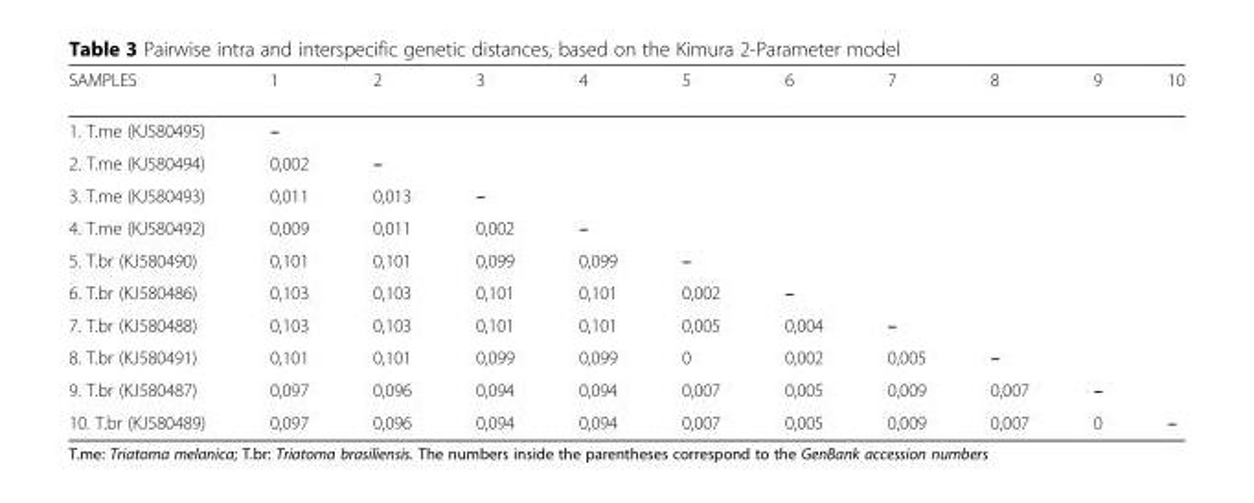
<table><thead><tr><td>SAMPLES</td><td>1</td><td>2</td><td>3</td><td>4</td><td>5</td><td>6</td><td>7</td><td>8</td><td>9</td><td>10</td></tr></thead><tbody><tr><td>1. T.me (KJ580495)</td><td>–</td><td></td><td></td><td></td><td></td><td></td><td></td><td></td><td></td><td></td></tr><tr><td>2. T.me (KJ580494)</td><td>0,002</td><td>–</td><td></td><td></td><td></td><td></td><td></td><td></td><td></td><td></td></tr><tr><td>3. T.me (KJ580493)</td><td>0,011</td><td>0,013</td><td>–</td><td></td><td></td><td></td><td></td><td></td><td></td><td></td></tr><tr><td>4. T.me (KJ580492)</td><td>0,009</td><td>0,011</td><td>0,002</td><td>–</td><td></td><td></td><td></td><td></td><td></td><td></td></tr><tr><td>5. T.br (KJ580490)</td><td>0,101</td><td>0,101</td><td>0,099</td><td>0,099</td><td>–</td><td></td><td></td><td></td><td></td><td></td></tr><tr><td>6. T.br (KJ580486)</td><td>0,103</td><td>0,103</td><td>0,101</td><td>0,101</td><td>0,002</td><td>–</td><td></td><td></td><td></td><td></td></tr><tr><td>7. T.br (KJ580488)</td><td>0,103</td><td>0,103</td><td>0,101</td><td>0,101</td><td>0,005</td><td>0,004</td><td>–</td><td></td><td></td><td></td></tr><tr><td>8. T.br (KJ580491)</td><td>0,101</td><td>0,101</td><td>0,099</td><td>0,099</td><td>0</td><td>0,002</td><td>0,005</td><td>–</td><td></td><td></td></tr><tr><td>9. T.br (KJ580487)</td><td>0,097</td><td>0,096</td><td>0,094</td><td>0,094</td><td>0,007</td><td>0,005</td><td>0,009</td><td>0,007</td><td>–</td><td></td></tr><tr><td>10. T.br (KJ580489)</td><td>0,097</td><td>0,096</td><td>0,094</td><td>0,094</td><td>0,007</td><td>0,005</td><td>0,009</td><td>0,007</td><td>0</td><td>–</td></tr></tbody></table>